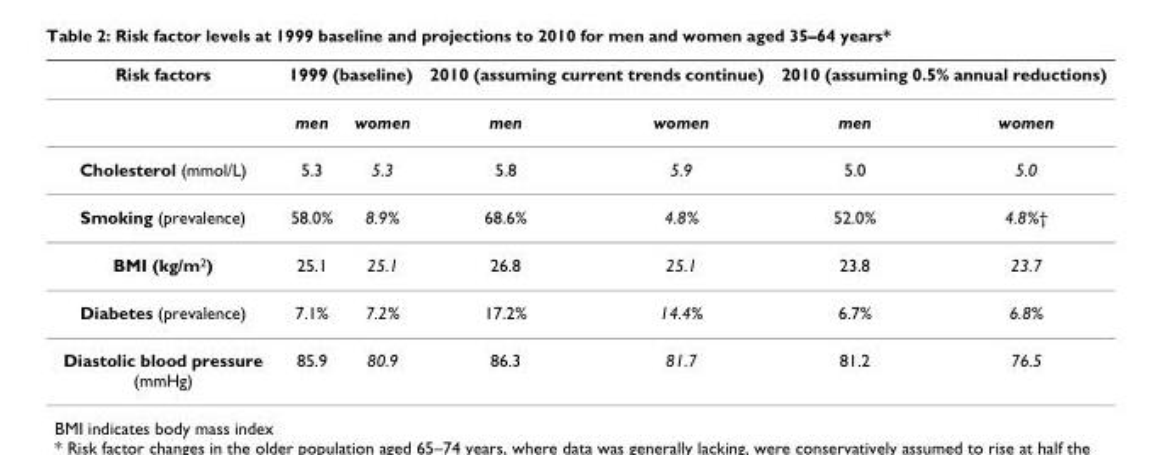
<table><thead><tr><td rowspan="2">Risk factors</td><td colspan="2">1999 (baseline)</td><td colspan="2">2010 (assuming current trends continue)</td><td colspan="2">2010 (assuming 0.5% annual reductions)</td></tr><tr><td>men</td><td>women</td><td>men</td><td>women</td><td>men</td><td>women</td></tr></thead><tbody><tr><td>Cholesterol (mmol/L)</td><td>5.3</td><td>5.3</td><td>5.8</td><td>5.9</td><td>5.0</td><td>5.0</td></tr><tr><td>Smoking (prevalence)</td><td>58.0%</td><td>8.9%</td><td>68.6%</td><td>4.8%</td><td>52.0%</td><td>4.8%†</td></tr><tr><td>BMI (kg/m<sup>2</sup>)</td><td>25.1</td><td>25.1</td><td>26.8</td><td>25.1</td><td>23.8</td><td>23.7</td></tr><tr><td>Diabetes (prevalence)</td><td>7.1%</td><td>7.2%</td><td>17.2%</td><td>14.4%</td><td>6.7%</td><td>6.8%</td></tr><tr><td>Diastolic blood pressure (mmHg)</td><td>85.9</td><td>80.9</td><td>86.3</td><td>81.7</td><td>81.2</td><td>76.5</td></tr></tbody></table>